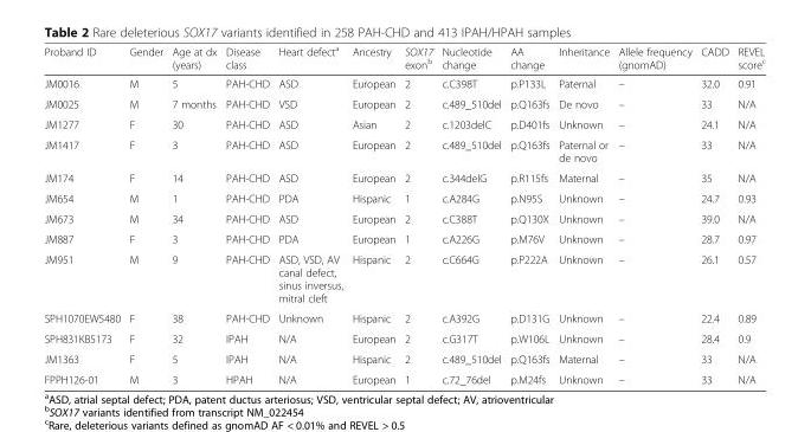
<table><thead><tr><td>Proband ID</td><td>Gender</td><td>Age at dx (years)</td><td>Disease class</td><td>Heart defect<sup>a</sup></td><td>Ancestry</td><td>SOX17 exon<sup>b</sup></td><td>Nucleotide change</td><td>AA change</td><td>Inheritance</td><td>Allele frequency (gnomAD)</td><td>CADD</td><td>REVEL score<sup>c</sup></td></tr></thead><tbody><tr><td>JM0016</td><td>M</td><td>5</td><td>PAH-CHD</td><td>ASD</td><td>European</td><td>2</td><td>c.C398T</td><td>p.P133L</td><td>Paternal</td><td>–</td><td>32.0</td><td>0.91</td></tr><tr><td>JM0025</td><td>M</td><td>7 months</td><td>PAH-CHD</td><td>VSD</td><td>European</td><td>2</td><td>c.489_510del</td><td>p.Q163fs</td><td>De novo</td><td>–</td><td>33</td><td>N/A</td></tr><tr><td>JM1277</td><td>F</td><td>30</td><td>PAH-CHD</td><td>ASD</td><td>Asian</td><td>2</td><td>c.1203delC</td><td>p.D401fs</td><td>Unknown</td><td>–</td><td>24.1</td><td>N/A</td></tr><tr><td>JM1417</td><td>F</td><td>3</td><td>PAH-CHD</td><td>ASD</td><td>European</td><td>2</td><td>c.489_510del</td><td>p.Q163fs</td><td>Paternal or de novo</td><td>–</td><td>33</td><td>N/A</td></tr><tr><td>JM174</td><td>F</td><td>14</td><td>PAH-CHD</td><td>ASD</td><td>European</td><td>2</td><td>c.344delG</td><td>p.R115fs</td><td>Maternal</td><td>–</td><td>35</td><td>N/A</td></tr><tr><td>JM654</td><td>M</td><td>1</td><td>PAH-CHD</td><td>PDA</td><td>Hispanic</td><td>1</td><td>c.A284G</td><td>p.N95S</td><td>Unknown</td><td>–</td><td>24.7</td><td>0.93</td></tr><tr><td>JM673</td><td>M</td><td>34</td><td>PAH-CHD</td><td>ASD</td><td>European</td><td>2</td><td>c.C388T</td><td>p.Q130X</td><td>Unknown</td><td>–</td><td>39.0</td><td>N/A</td></tr><tr><td>JM887</td><td>F</td><td>3</td><td>PAH-CHD</td><td>PDA</td><td>European</td><td>1</td><td>c.A226G</td><td>p.M76V</td><td>Unknown</td><td>–</td><td>28.7</td><td>0.97</td></tr><tr><td>JM951</td><td>M</td><td>9</td><td>PAH-CHD</td><td>ASD, VSD, AV canal defect, sinus inversus, mitral cleft</td><td>Hispanic</td><td>2</td><td>c.C664G</td><td>p.P222A</td><td>Unknown</td><td>–</td><td>26.1</td><td>0.57</td></tr><tr><td>SPH1070EW5480</td><td>F</td><td>38</td><td>PAH-CHD</td><td>Unknown</td><td>Hispanic</td><td>2</td><td>c.A392G</td><td>p.D131G</td><td>Unknown</td><td>–</td><td>22.4</td><td>0.89</td></tr><tr><td>SPH831KB5173</td><td>F</td><td>32</td><td>IPAH</td><td>N/A</td><td>European</td><td>2</td><td>c.G317T</td><td>p.W106L</td><td>Unknown</td><td>–</td><td>28.4</td><td>0.9</td></tr><tr><td>JM1363</td><td>F</td><td>5</td><td>IPAH</td><td>N/A</td><td>Hispanic</td><td>2</td><td>c.489_510del</td><td>p.Q163fs</td><td>Maternal</td><td>–</td><td>33</td><td>N/A</td></tr><tr><td>FPPH126-01</td><td>M</td><td>3</td><td>HPAH</td><td>N/A</td><td>European</td><td>1</td><td>c.72_76del</td><td>p.M24fs</td><td>Unknown</td><td>–</td><td>33</td><td>N/A</td></tr></tbody></table>